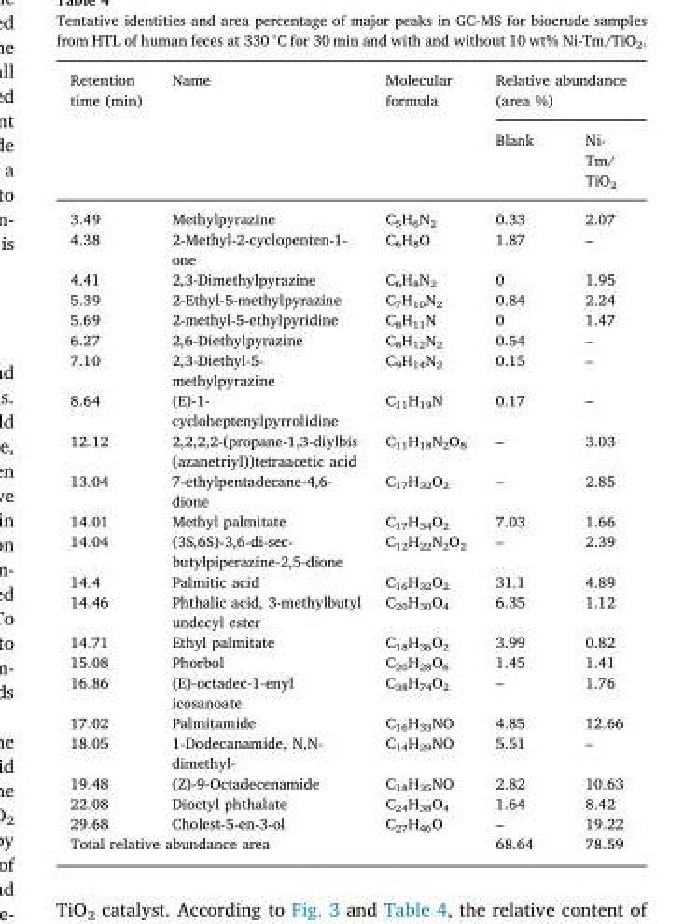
<table><thead><tr><td rowspan="2">Retention time (min)</td><td rowspan="2">Name</td><td rowspan="2">Molecular formula</td><td colspan="2">Relative abundance (area %)</td></tr><tr><td>Blank</td><td>Ni- Tm/ TiO<sub>2</sub></td></tr></thead><tbody><tr><td>3.49</td><td>Methylpyrazine</td><td>C<sub>5</sub>H<sub>6</sub>N<sub>2</sub></td><td>0.33</td><td>2.07</td></tr><tr><td>4.38</td><td>2-Methyl-2-cyclopenten-1- one</td><td>C<sub>6</sub>H<sub>8</sub>O</td><td>1.87</td><td>–</td></tr><tr><td>4.41</td><td>2,3-Dimethylpyrazine</td><td>C<sub>6</sub>H<sub>8</sub>N<sub>2</sub></td><td>0</td><td>1.95</td></tr><tr><td>5.39</td><td>2-Ethyl-5-methylpyrazine</td><td>C<sub>7</sub>H<sub>10</sub>N<sub>2</sub></td><td>0.84</td><td>2.24</td></tr><tr><td>5.69</td><td>2-methyl-5-ethylpyridine</td><td>C<sub>8</sub>H<sub>11</sub>N</td><td>0</td><td>1.47</td></tr><tr><td>6.27</td><td>2,6-Diethylpyrazine</td><td>C<sub>8</sub>H<sub>12</sub>N<sub>2</sub></td><td>0.54</td><td>–</td></tr><tr><td>7.10</td><td>2,3-Diethyl-5- methylpyrazine</td><td>C<sub>9</sub>H<sub>14</sub>N<sub>2</sub></td><td>0.15</td><td>–</td></tr><tr><td>8.64</td><td>(E)-1- cycloheptenylpyrrolidine</td><td>C<sub>11</sub>H<sub>19</sub>N</td><td>0.17</td><td>–</td></tr><tr><td>12.12</td><td>2,2,2,2-(propane-1,3-diylbis (azanetriyl))tetraacetic acid</td><td>C<sub>11</sub>H<sub>18</sub>N<sub>2</sub>O<sub>8</sub></td><td>–</td><td>3.03</td></tr><tr><td>13.04</td><td>7-ethylpentadecane-4,6- dione</td><td>C<sub>17</sub>H<sub>32</sub>O<sub>2</sub></td><td>–</td><td>2.85</td></tr><tr><td>14.01</td><td>Methyl palmitate</td><td>C<sub>17</sub>H<sub>34</sub>O<sub>2</sub></td><td>7.03</td><td>1.66</td></tr><tr><td>14.04</td><td>(3S,6S)-3,6-di-sec- butylpiperazine-2,5-dione</td><td>C<sub>12</sub>H<sub>22</sub>N<sub>2</sub>O<sub>2</sub></td><td>–</td><td>2.39</td></tr><tr><td>14.4</td><td>Palmitic acid</td><td>C<sub>16</sub>H<sub>32</sub>O<sub>2</sub></td><td>31.1</td><td>4.89</td></tr><tr><td>14.46</td><td>Phthalic acid, 3-methylbutyl undecyl ester</td><td>C<sub>20</sub>H<sub>30</sub>O<sub>4</sub></td><td>6.35</td><td>1.12</td></tr><tr><td>14.71</td><td>Ethyl palmitate</td><td>C<sub>18</sub>H<sub>36</sub>O<sub>2</sub></td><td>3.99</td><td>0.82</td></tr><tr><td>15.08</td><td>Phorbol</td><td>C<sub>20</sub>H<sub>28</sub>O<sub>6</sub></td><td>1.45</td><td>1.41</td></tr><tr><td>16.86</td><td>(E)-octadec-1-enyl icosanoate</td><td>C<sub>38</sub>H<sub>74</sub>O<sub>2</sub></td><td>–</td><td>1.76</td></tr><tr><td>17.02</td><td>Palmitamide</td><td>C<sub>16</sub>H<sub>33</sub>NO</td><td>4.85</td><td>12.66</td></tr><tr><td>18.05</td><td>1-Dodecanamide, N,N- dimethyl-</td><td>C<sub>14</sub>H<sub>29</sub>NO</td><td>5.51</td><td>–</td></tr><tr><td>19.48</td><td>(Z)-9-Octadecenamide</td><td>C<sub>18</sub>H<sub>35</sub>NO</td><td>2.82</td><td>10.63</td></tr><tr><td>22.08</td><td>Dioctyl phthalate</td><td>C<sub>24</sub>H<sub>38</sub>O<sub>4</sub></td><td>1.64</td><td>8.42</td></tr><tr><td>29.68</td><td>Cholest-5-en-3-ol</td><td>C<sub>27</sub>H<sub>46</sub>O</td><td>–</td><td>19.22</td></tr><tr><td colspan="3">Total relative abundance area</td><td>68.64</td><td>78.59</td></tr></tbody></table>